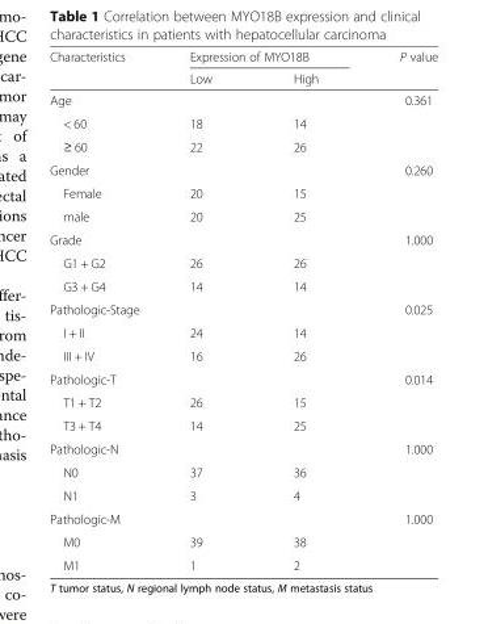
<table><thead><tr><td rowspan="2">Characteristics</td><td colspan="2">Expression of MYO18B</td><td rowspan="2">P value</td></tr><tr><td>Low</td><td>High</td></tr></thead><tbody><tr><td>Age</td><td></td><td></td><td>0.361</td></tr><tr><td>&lt; 60</td><td>18</td><td>14</td><td></td></tr><tr><td>≥ 60</td><td>22</td><td>26</td><td></td></tr><tr><td>Gender</td><td></td><td></td><td>0.260</td></tr><tr><td>Female</td><td>20</td><td>15</td><td></td></tr><tr><td>male</td><td>20</td><td>25</td><td></td></tr><tr><td>Grade</td><td></td><td></td><td>1.000</td></tr><tr><td>G1 + G2</td><td>26</td><td>26</td><td></td></tr><tr><td>G3 + G4</td><td>14</td><td>14</td><td></td></tr><tr><td>Pathologic-Stage</td><td></td><td></td><td>0.025</td></tr><tr><td>I + II</td><td>24</td><td>14</td><td></td></tr><tr><td>III + IV</td><td>16</td><td>26</td><td></td></tr><tr><td>Pathologic-T</td><td></td><td></td><td>0.014</td></tr><tr><td>T1 + T2</td><td>26</td><td>15</td><td></td></tr><tr><td>T3 + T4</td><td>14</td><td>25</td><td></td></tr><tr><td>Pathologic-N</td><td></td><td></td><td>1.000</td></tr><tr><td>N0</td><td>37</td><td>36</td><td></td></tr><tr><td>N1</td><td>3</td><td>4</td><td></td></tr><tr><td>Pathologic-M</td><td></td><td></td><td>1.000</td></tr><tr><td>M0</td><td>39</td><td>38</td><td></td></tr><tr><td>M1</td><td>1</td><td>2</td><td></td></tr></tbody></table>